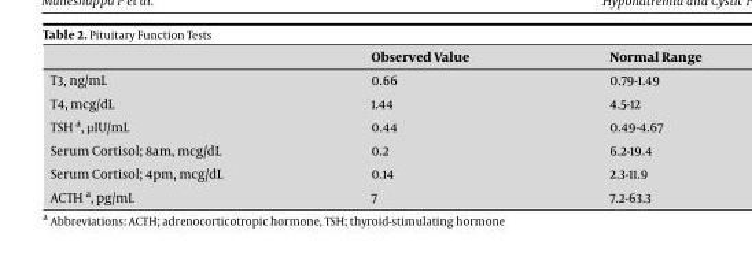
<table><thead><tr><td></td><td>Observed Value</td><td>Normal Range</td></tr></thead><tbody><tr><td>T3, ng/mL</td><td>0.66</td><td>0.79-1.49</td></tr><tr><td>T4, mcg/dL</td><td>1.44</td><td>4.5-12</td></tr><tr><td>TSH <sup>a</sup>, μIU/mL</td><td>0.44</td><td>0.49-4.67</td></tr><tr><td>Serum Cortisol; 8am, mcg/dL</td><td>0.2</td><td>6.2-19.4</td></tr><tr><td>Serum Cortisol; 4pm, mcg/dL</td><td>0.14</td><td>2.3-11.9</td></tr><tr><td>ACTH <sup>a</sup>, pg/mL</td><td>7</td><td>7.2-63.3</td></tr></tbody></table>